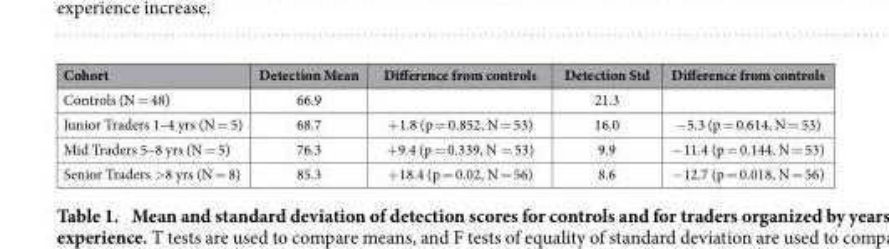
<table><thead><tr><td>Cohort</td><td>Detection Mean</td><td>Difference from controls</td><td>Detection Std</td><td>Difference from controls</td></tr></thead><tbody><tr><td>Controls (N = 48)</td><td>66.9</td><td></td><td>21.3</td><td></td></tr><tr><td>Junior Traders 1–4 yrs (N = 5)</td><td>68.7</td><td>+ 1.8 (p = 0.852, N = 53)</td><td>16.0</td><td>− 5.3 (p = 0.614, N = 53)</td></tr><tr><td>Mid Traders 5–8 yrs (N = 5)</td><td>76.3</td><td>+ 9.4 (p = 0.339, N = 53)</td><td>9.9</td><td>− 11.4 (p = 0.144, N = 53)</td></tr><tr><td>Senior Traders &gt; 8 yrs (N = 8)</td><td>85.3</td><td>+ 18.4 (p = 0.02, N = 56)</td><td>8.6</td><td>− 12.7 (p = 0.018, N = 56)</td></tr></tbody></table>